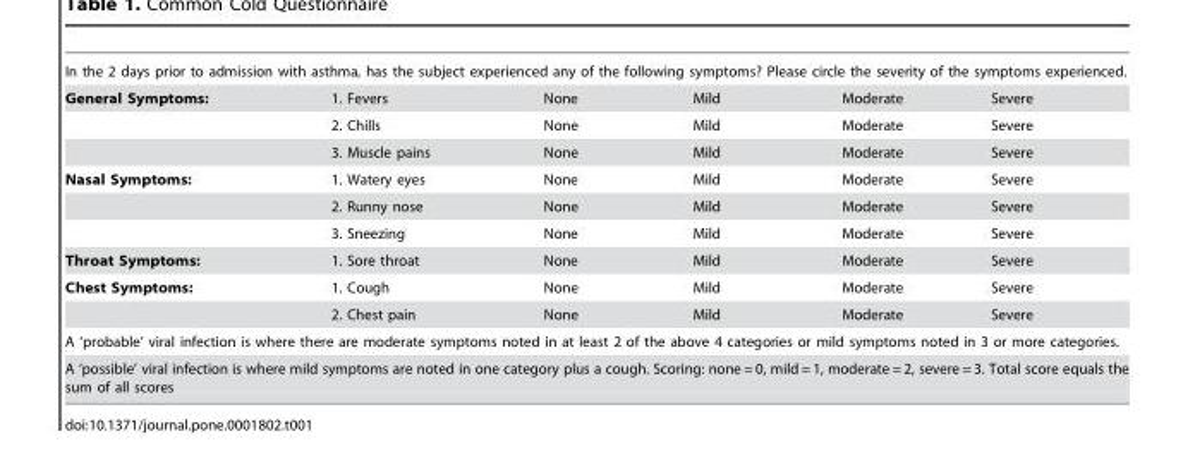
<table><tbody><tr><td colspan="6">In the 2 days prior to admission with asthma, has the subject experienced any of the following symptoms? Please circle the severity of the symptoms experienced.</td></tr><tr><td rowspan="3">General Symptoms:</td><td>1. Fevers</td><td>None</td><td>Mild</td><td>Moderate</td><td>Severe</td></tr><tr><td>2. Chills</td><td>None</td><td>Mild</td><td>Moderate</td><td>Severe</td></tr><tr><td>3. Muscle pains</td><td>None</td><td>Mild</td><td>Moderate</td><td>Severe</td></tr><tr><td rowspan="3">Nasal Symptoms:</td><td>1. Watery eyes</td><td>None</td><td>Mild</td><td>Moderate</td><td>Severe</td></tr><tr><td>2. Runny nose</td><td>None</td><td>Mild</td><td>Moderate</td><td>Severe</td></tr><tr><td>3. Sneezing</td><td>None</td><td>Mild</td><td>Moderate</td><td>Severe</td></tr><tr><td>Throat Symptoms:</td><td>1. Sore throat</td><td>None</td><td>Mild</td><td>Moderate</td><td>Severe</td></tr><tr><td rowspan="2">Chest Symptoms:</td><td>1. Cough</td><td>None</td><td>Mild</td><td>Moderate</td><td>Severe</td></tr><tr><td>2. Chest pain</td><td>None</td><td>Mild</td><td>Moderate</td><td>Severe</td></tr><tr><td colspan="6">A ‘probable’ viral infection is where there are moderate symptoms noted in at least 2 of the above 4 categories or mild symptoms noted in 3 or more categories.</td></tr><tr><td colspan="6">A ‘possible’ viral infection is where mild symptoms are noted in one category plus a cough. Scoring: none = 0, mild = 1, moderate = 2, severe = 3. Total score equals the sum of all scores</td></tr></tbody></table>